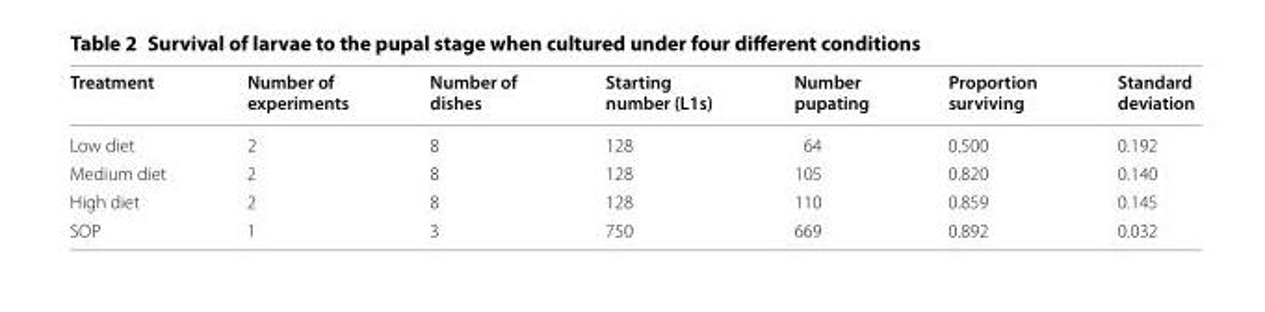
<table><thead><tr><td>Treatment</td><td>Number of experiments</td><td>Number of dishes</td><td>Starting number (L1s)</td><td>Number pupating</td><td>Proportion surviving</td><td>Standard deviation</td></tr></thead><tbody><tr><td>Low diet</td><td>2</td><td>8</td><td>128</td><td>64</td><td>0.500</td><td>0.192</td></tr><tr><td>Medium diet</td><td>2</td><td>8</td><td>128</td><td>105</td><td>0.820</td><td>0.140</td></tr><tr><td>High diet</td><td>2</td><td>8</td><td>128</td><td>110</td><td>0.859</td><td>0.145</td></tr><tr><td>SOP</td><td>1</td><td>3</td><td>750</td><td>669</td><td>0.892</td><td>0.032</td></tr></tbody></table>